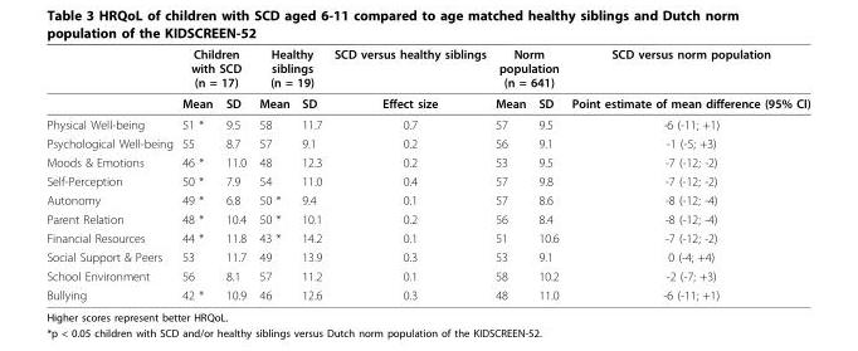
<table><thead><tr><td rowspan="2"></td><td colspan="2">Children with SCD (n = 17)</td><td colspan="2">Healthy siblings (n = 19)</td><td rowspan="2">SCD versus healthy siblings Effect size</td><td colspan="2">Norm population (n = 641)</td><td rowspan="2">SCD versus norm population Point estimate of mean difference (95% CI)</td></tr><tr><td>Mean</td><td>SD</td><td>Mean</td><td>SD</td><td>Mean</td><td>SD</td></tr></thead><tbody><tr><td>Physical Well-being</td><td>51 *</td><td>9.5</td><td>58</td><td>11.7</td><td>0.7</td><td>57</td><td>9.5</td><td>-6 (-11; +1)</td></tr><tr><td>Psychological Well-being</td><td>55</td><td>8.7</td><td>57</td><td>9.1</td><td>0.2</td><td>56</td><td>9.1</td><td>-1 (-5; +3)</td></tr><tr><td>Moods &amp; Emotions</td><td>46 *</td><td>11.0</td><td>48</td><td>12.3</td><td>0.2</td><td>53</td><td>9.5</td><td>-7 (-12; -2)</td></tr><tr><td>Self-Perception</td><td>50 *</td><td>7.9</td><td>54</td><td>11.0</td><td>0.4</td><td>57</td><td>9.8</td><td>-7 (-12; -2)</td></tr><tr><td>Autonomy</td><td>49 *</td><td>6.8</td><td>50 *</td><td>9.4</td><td>0.1</td><td>57</td><td>8.6</td><td>-8 (-12; -4)</td></tr><tr><td>Parent Relation</td><td>48 *</td><td>10.4</td><td>50 *</td><td>10.1</td><td>0.2</td><td>56</td><td>8.4</td><td>-8 (-12; -4)</td></tr><tr><td>Financial Resources</td><td>44 *</td><td>11.8</td><td>43 *</td><td>14.2</td><td>0.1</td><td>51</td><td>10.6</td><td>-7 (-12; -2)</td></tr><tr><td>Social Support &amp; Peers</td><td>53</td><td>11.7</td><td>49</td><td>13.9</td><td>0.3</td><td>53</td><td>9.1</td><td>0 (-4; +4)</td></tr><tr><td>School Environment</td><td>56</td><td>8.1</td><td>57</td><td>11.2</td><td>0.1</td><td>58</td><td>10.2</td><td>-2 (-7; +3)</td></tr><tr><td>Bullying</td><td>42 *</td><td>10.9</td><td>46</td><td>12.6</td><td>0.3</td><td>48</td><td>11.0</td><td>-6 (-11; +1)</td></tr></tbody></table>